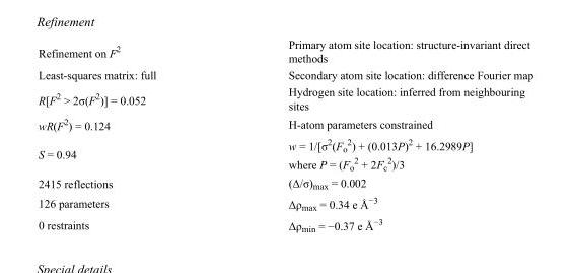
<table><tbody><tr><td>Refinement on F<sup>2</sup></td><td>Primary atom site location: structure-invariant direct methods</td></tr><tr><td>Least-squares matrix: full</td><td>Secondary atom site location: difference Fourier map</td></tr><tr><td>R[F<sup>2</sup> &gt; 2σ(F<sup>2</sup>)] = 0.052</td><td>Hydrogen site location: inferred from neighbouring sites</td></tr><tr><td>wR(F<sup>2</sup>) = 0.124</td><td>H-atom parameters constrained</td></tr><tr><td>S = 0.94</td><td>w = 1/[σ<sup>2</sup>(F<sub>o</sub> <sup>2</sup>) + (0.013P)<sup>2</sup> + 16.2989P] where P = (F<sub>o</sub> <sup>2</sup> + 2F<sub>c</sub> <sup>2</sup>)/3</td></tr><tr><td>2415 reflections</td><td>(Δ/σ)<sub>max</sub> = 0.002</td></tr><tr><td>126 parameters</td><td>Δρ<sub>max</sub> = 0.34 e Å<sup>−3</sup></td></tr><tr><td>0 restraints</td><td>Δρ<sub>min</sub> = −0.37 e Å<sup>−3</sup></td></tr></tbody></table>